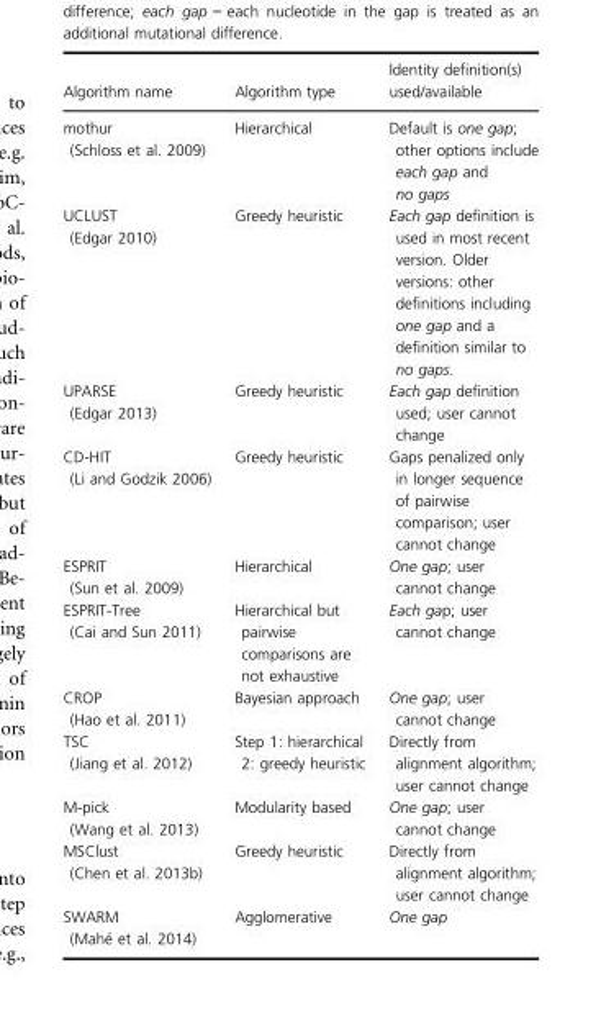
<table><thead><tr><td>Algorithm name</td><td>Algorithm type</td><td>Identity definition(s) used/available</td></tr></thead><tbody><tr><td>mothur (Schloss et al. 2009)</td><td>Hierarchical</td><td>Default is one gap; other options include each gap and no gaps</td></tr><tr><td>UCLUST (Edgar 2010)</td><td>Greedy heuristic</td><td>Each gap definition is used in most recent version. Older versions: other definitions including one gap and a definition similar to no gaps.</td></tr><tr><td>UPARSE (Edgar 2013)</td><td>Greedy heuristic</td><td>Each gap definition used; user cannot change</td></tr><tr><td>CD-HIT (Li and Godzik 2006)</td><td>Greedy heuristic</td><td>Gaps penalized only in longer sequence of pairwise comparison; user cannot change</td></tr><tr><td>ESPRIT (Sun et al. 2009)</td><td>Hierarchical</td><td>One gap; user cannot change</td></tr><tr><td>ESPRIT-Tree (Cai and Sun 2011)</td><td>Hierarchical but pairwise comparisons are not exhaustive</td><td>Each gap; user cannot change</td></tr><tr><td>CROP (Hao et al. 2011)</td><td>Bayesian approach</td><td>One gap; user cannot change</td></tr><tr><td>TSC (Jiang et al. 2012)</td><td>Step 1: hierarchical 2: greedy heuristic</td><td>Directly from alignment algorithm; user cannot change</td></tr><tr><td>M-pick (Wang et al. 2013)</td><td>Modularity based</td><td>One gap; user cannot change</td></tr><tr><td>MSClust (Chen et al. 2013b)</td><td>Greedy heuristic</td><td>Directly from alignment algorithm; user cannot change</td></tr><tr><td>SWARM (Mah�e et al. 2014)</td><td>Agglomerative</td><td>One gap</td></tr></tbody></table>